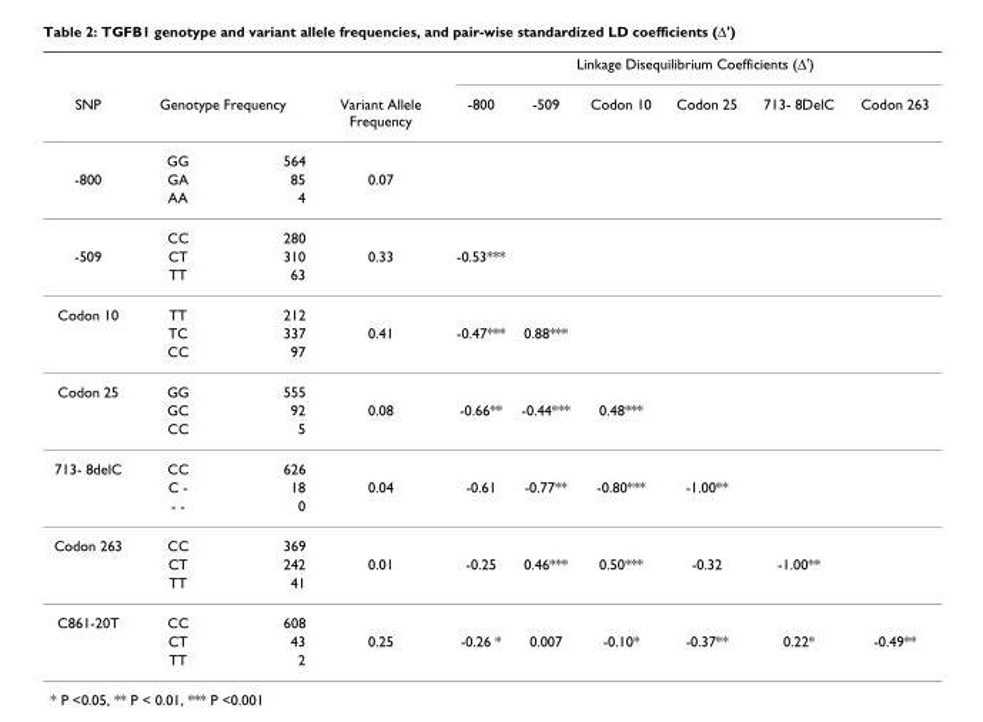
<table><thead><tr><td rowspan="2">SNP</td><td></td><td></td><td rowspan="2">Variant Allele Frequency</td><td colspan="6">Linkage Disequilibrium Coefficients (∆&#x27;)</td></tr><tr><td colspan="2">Genotype Frequency</td><td>-800</td><td>-509</td><td>Codon 10</td><td>Codon 25</td><td>713- 8DelC</td><td>Codon 263</td></tr></thead><tbody><tr><td></td><td>GG</td><td>564</td><td></td><td></td><td></td><td></td><td></td><td></td><td></td></tr><tr><td rowspan="3">-800</td><td>GA</td><td>85</td><td>0.07</td><td></td><td></td><td></td><td></td><td></td><td></td></tr><tr><td>AA</td><td>4</td><td></td><td></td><td></td><td></td><td></td><td></td><td></td></tr><tr><td>CC</td><td>280</td><td></td><td></td><td></td><td></td><td></td><td></td><td></td></tr><tr><td rowspan="2">-509</td><td>CT</td><td>310</td><td>0.33</td><td>-0.53***</td><td></td><td></td><td></td><td></td><td></td></tr><tr><td>TT</td><td>63</td><td></td><td></td><td></td><td></td><td></td><td></td><td></td></tr><tr><td rowspan="3">Codon 10</td><td>TT</td><td>212</td><td></td><td></td><td></td><td></td><td></td><td></td><td></td></tr><tr><td>TC</td><td>337</td><td>0.41</td><td>-0.47***</td><td>0.88***</td><td></td><td></td><td></td><td></td></tr><tr><td>CC</td><td>97</td><td></td><td></td><td></td><td></td><td></td><td></td><td></td></tr><tr><td rowspan="3">Codon 25</td><td>GG</td><td>555</td><td></td><td></td><td></td><td></td><td></td><td></td><td></td></tr><tr><td>GC</td><td>92</td><td>0.08</td><td>-0.66**</td><td>-0.44***</td><td>0.48***</td><td></td><td></td><td></td></tr><tr><td>CC</td><td>5</td><td></td><td></td><td></td><td></td><td></td><td></td><td></td></tr><tr><td rowspan="3">713- 8delC</td><td>CC</td><td>626</td><td></td><td></td><td></td><td></td><td></td><td></td><td></td></tr><tr><td>C -</td><td>18</td><td>0.04</td><td>-0.61</td><td>-0.77**</td><td>-0.80***</td><td>-1.00**</td><td></td><td></td></tr><tr><td>- -</td><td>0</td><td></td><td></td><td></td><td></td><td></td><td></td><td></td></tr><tr><td rowspan="3">Codon 263</td><td>CC</td><td>369</td><td></td><td></td><td></td><td></td><td></td><td></td><td></td></tr><tr><td>CT</td><td>242</td><td>0.01</td><td>-0.25</td><td>0.46***</td><td>0.50***</td><td>-0.32</td><td>-1.00**</td><td></td></tr><tr><td>TT</td><td>41</td><td></td><td></td><td></td><td></td><td></td><td></td><td></td></tr><tr><td rowspan="3">C861-20T</td><td>CC</td><td>608</td><td></td><td></td><td></td><td></td><td></td><td></td><td></td></tr><tr><td>CT</td><td>43</td><td>0.25</td><td>-0.26 *</td><td>0.007</td><td>-0.10*</td><td>-0.37**</td><td>0.22*</td><td>-0.49**</td></tr><tr><td>TT</td><td>2</td><td></td><td></td><td></td><td></td><td></td><td></td><td></td></tr></tbody></table>